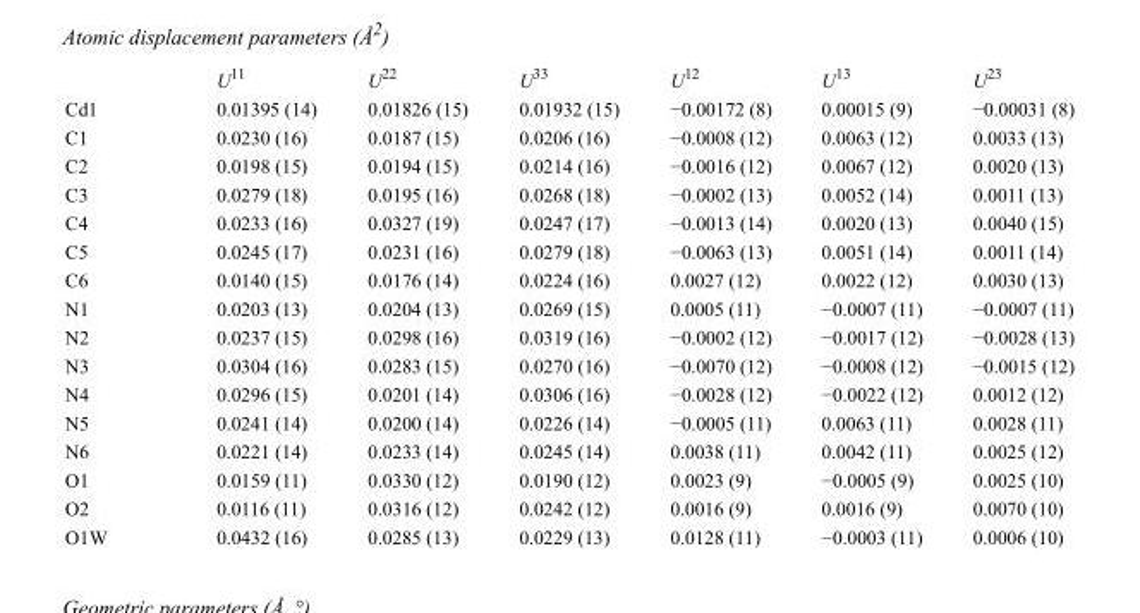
<table><thead><tr><td></td><td>U<sup>11</sup></td><td>U<sup>22</sup></td><td>U<sup>33</sup></td><td>U<sup>12</sup></td><td>U<sup>13</sup></td><td>U<sup>23</sup></td></tr></thead><tbody><tr><td>Cd1</td><td>0.01395 (14)</td><td>0.01826 (15)</td><td>0.01932 (15)</td><td>−0.00172 (8)</td><td>0.00015 (9)</td><td>−0.00031 (8)</td></tr><tr><td>C1</td><td>0.0230 (16)</td><td>0.0187 (15)</td><td>0.0206 (16)</td><td>−0.0008 (12)</td><td>0.0063 (12)</td><td>0.0033 (13)</td></tr><tr><td>C2</td><td>0.0198 (15)</td><td>0.0194 (15)</td><td>0.0214 (16)</td><td>−0.0016 (12)</td><td>0.0067 (12)</td><td>0.0020 (13)</td></tr><tr><td>C3</td><td>0.0279 (18)</td><td>0.0195 (16)</td><td>0.0268 (18)</td><td>−0.0002 (13)</td><td>0.0052 (14)</td><td>0.0011 (13)</td></tr><tr><td>C4</td><td>0.0233 (16)</td><td>0.0327 (19)</td><td>0.0247 (17)</td><td>−0.0013 (14)</td><td>0.0020 (13)</td><td>0.0040 (15)</td></tr><tr><td>C5</td><td>0.0245 (17)</td><td>0.0231 (16)</td><td>0.0279 (18)</td><td>−0.0063 (13)</td><td>0.0051 (14)</td><td>0.0011 (14)</td></tr><tr><td>C6</td><td>0.0140 (15)</td><td>0.0176 (14)</td><td>0.0224 (16)</td><td>0.0027 (12)</td><td>0.0022 (12)</td><td>0.0030 (13)</td></tr><tr><td>N1</td><td>0.0203 (13)</td><td>0.0204 (13)</td><td>0.0269 (15)</td><td>0.0005 (11)</td><td>−0.0007 (11)</td><td>−0.0007 (11)</td></tr><tr><td>N2</td><td>0.0237 (15)</td><td>0.0298 (16)</td><td>0.0319 (16)</td><td>−0.0002 (12)</td><td>−0.0017 (12)</td><td>−0.0028 (13)</td></tr><tr><td>N3</td><td>0.0304 (16)</td><td>0.0283 (15)</td><td>0.0270 (16)</td><td>−0.0070 (12)</td><td>−0.0008 (12)</td><td>−0.0015 (12)</td></tr><tr><td>N4</td><td>0.0296 (15)</td><td>0.0201 (14)</td><td>0.0306 (16)</td><td>−0.0028 (12)</td><td>−0.0022 (12)</td><td>0.0012 (12)</td></tr><tr><td>N5</td><td>0.0241 (14)</td><td>0.0200 (14)</td><td>0.0226 (14)</td><td>−0.0005 (11)</td><td>0.0063 (11)</td><td>0.0028 (11)</td></tr><tr><td>N6</td><td>0.0221 (14)</td><td>0.0233 (14)</td><td>0.0245 (14)</td><td>0.0038 (11)</td><td>0.0042 (11)</td><td>0.0025 (12)</td></tr><tr><td>O1</td><td>0.0159 (11)</td><td>0.0330 (12)</td><td>0.0190 (12)</td><td>0.0023 (9)</td><td>−0.0005 (9)</td><td>0.0025 (10)</td></tr><tr><td>O2</td><td>0.0116 (11)</td><td>0.0316 (12)</td><td>0.0242 (12)</td><td>0.0016 (9)</td><td>0.0016 (9)</td><td>0.0070 (10)</td></tr><tr><td>O1W</td><td>0.0432 (16)</td><td>0.0285 (13)</td><td>0.0229 (13)</td><td>0.0128 (11)</td><td>−0.0003 (11)</td><td>0.0006 (10)</td></tr></tbody></table>